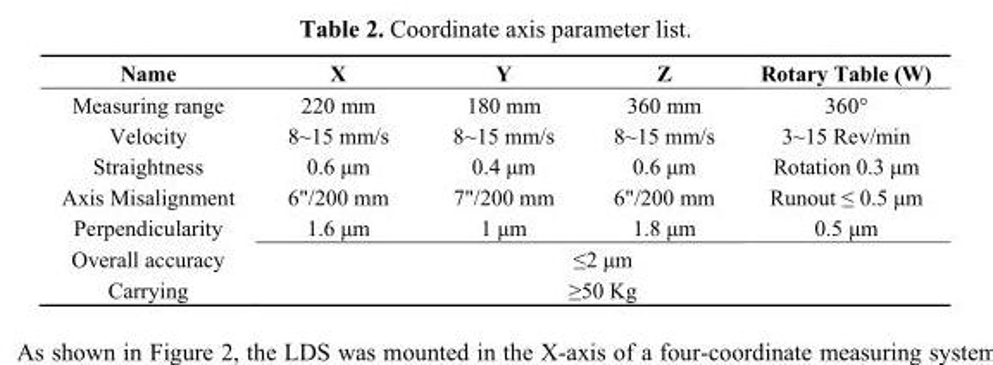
<table><thead><tr><td>Name</td><td>X</td><td>Y</td><td>Z</td><td>Rotary Table (W)</td></tr></thead><tbody><tr><td>Measuring range</td><td>220 mm</td><td>180 mm</td><td>360 mm</td><td>360°</td></tr><tr><td>Velocity</td><td>8~15 mm/s</td><td>8~15 mm/s</td><td>8~15 mm/s</td><td>3~15 Rev/min</td></tr><tr><td>Straightness</td><td>0.6 μm</td><td>0.4 μm</td><td>0.6 μm</td><td>Rotation 0.3 μm</td></tr><tr><td>Axis Misalignment</td><td>6&quot;/200 mm</td><td>7&quot;/200 mm</td><td>6&quot;/200 mm</td><td>Runout ≤ 0.5 μm</td></tr><tr><td>Perpendicularity</td><td>1.6 μm</td><td>1 μm</td><td>1.8 μm</td><td>0.5 μm</td></tr><tr><td>Overall accuracy</td><td colspan="4">≤2 μm</td></tr><tr><td>Carrying</td><td colspan="4">≥50 Kg</td></tr></tbody></table>